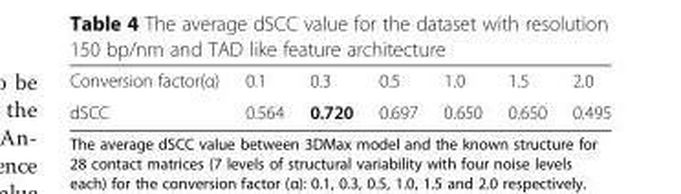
<table><tbody><tr><td>Conversion factor(α)</td><td>0.1</td><td>0.3</td><td>0.5</td><td>1.0</td><td>1.5</td><td>2.0</td></tr><tr><td>dSCC</td><td>0.564</td><td>0.720</td><td>0.697</td><td>0.650</td><td>0.650</td><td>0.495</td></tr></tbody></table>